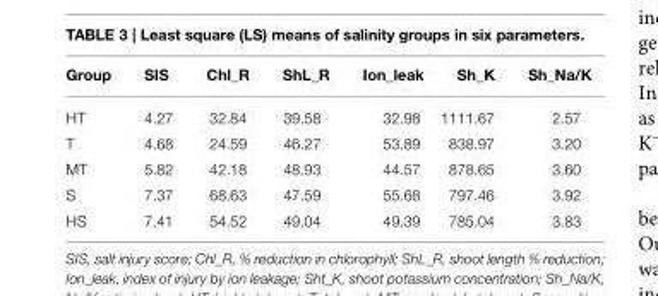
<table><thead><tr><td>Group</td><td>SIS</td><td>Chl_R</td><td>ShL_R</td><td>Ion_leak</td><td>Sh_K</td><td>Sh_Na/K</td></tr></thead><tbody><tr><td>HT</td><td>4.27</td><td>32.84</td><td>39.58</td><td>32.98</td><td>1111.67</td><td>2.57</td></tr><tr><td>T</td><td>4.68</td><td>24.59</td><td>46.27</td><td>53.89</td><td>838.97</td><td>3.20</td></tr><tr><td>MT</td><td>5.82</td><td>42.18</td><td>48.93</td><td>44.57</td><td>878.65</td><td>3.60</td></tr><tr><td>S</td><td>7.37</td><td>68.63</td><td>47.59</td><td>55.68</td><td>797.46</td><td>3.92</td></tr><tr><td>HS</td><td>7.41</td><td>54.52</td><td>49.04</td><td>49.39</td><td>785.04</td><td>3.83</td></tr></tbody></table>